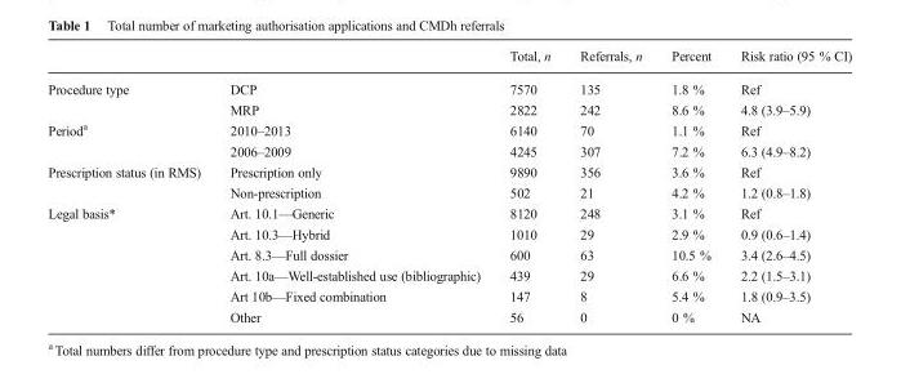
<table><thead><tr><td></td><td></td><td>Total, n</td><td>Referrals, n</td><td>Percent</td><td>Risk ratio (95 % CI)</td></tr></thead><tbody><tr><td rowspan="2">Procedure type</td><td>DCP</td><td>7570</td><td>135</td><td>1.8 %</td><td>Ref</td></tr><tr><td>MRP</td><td>2822</td><td>242</td><td>8.6 %</td><td>4.8 (3.9–5.9)</td></tr><tr><td rowspan="2">Period<sup>a</sup></td><td>2010–2013</td><td>6140</td><td>70</td><td>1.1 %</td><td>Ref</td></tr><tr><td>2006–2009</td><td>4245</td><td>307</td><td>7.2 %</td><td>6.3 (4.9–8.2)</td></tr><tr><td rowspan="2">Prescription status (in RMS)</td><td>Prescription only</td><td>9890</td><td>356</td><td>3.6 %</td><td>Ref</td></tr><tr><td>Non-prescription</td><td>502</td><td>21</td><td>4.2 %</td><td>1.2 (0.8–1.8)</td></tr><tr><td rowspan="6">Legal basis*</td><td>Art. 10.1—Generic</td><td>8120</td><td>248</td><td>3.1 %</td><td>Ref</td></tr><tr><td>Art. 10.3—Hybrid</td><td>1010</td><td>29</td><td>2.9 %</td><td>0.9 (0.6–1.4)</td></tr><tr><td>Art. 8.3—Full dossier</td><td>600</td><td>63</td><td>10.5 %</td><td>3.4 (2.6–4.5)</td></tr><tr><td>Art. 10a—Well-established use (bibliographic)</td><td>439</td><td>29</td><td>6.6 %</td><td>2.2 (1.5–3.1)</td></tr><tr><td>Art 10b—Fixed combination</td><td>147</td><td>8</td><td>5.4 %</td><td>1.8 (0.9–3.5)</td></tr><tr><td>Other</td><td>56</td><td>0</td><td>0 %</td><td>NA</td></tr></tbody></table>